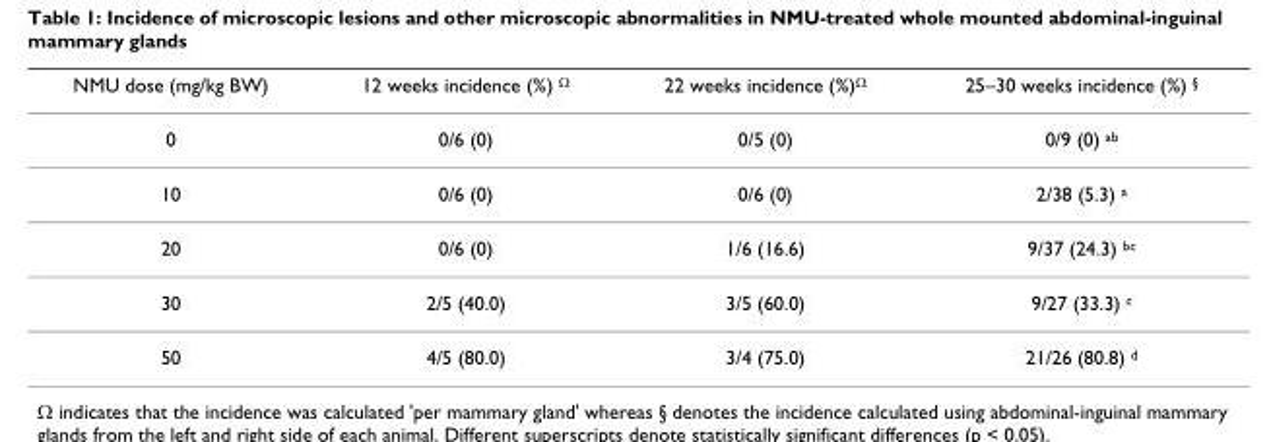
<table><thead><tr><td>NMU dose (mg/kg BW)</td><td>12 weeks incidence (%) <sup>Ω</sup></td><td>22 weeks incidence (%)<sup>Ω</sup></td><td>25–30 weeks incidence (%) <sup>§</sup></td></tr></thead><tbody><tr><td>0</td><td>0/6 (0)</td><td>0/5 (0)</td><td>0/9 (0) <sup>ab</sup></td></tr><tr><td>10</td><td>0/6 (0)</td><td>0/6 (0)</td><td>2/38 (5.3) <sup>a</sup></td></tr><tr><td>20</td><td>0/6 (0)</td><td>1/6 (16.6)</td><td>9/37 (24.3) <sup>bc</sup></td></tr><tr><td>30</td><td>2/5 (40.0)</td><td>3/5 (60.0)</td><td>9/27 (33.3) <sup>c</sup></td></tr><tr><td>50</td><td>4/5 (80.0)</td><td>3/4 (75.0)</td><td>21/26 (80.8) <sup>d</sup></td></tr></tbody></table>